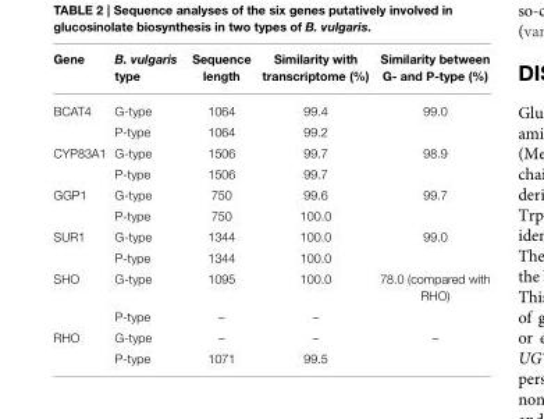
<table><thead><tr><td>Gene</td><td>B. vulgaris type</td><td>Sequence length</td><td>Similarity with transcriptome (%)</td><td>Similarity between G- and P-type (%)</td></tr></thead><tbody><tr><td rowspan="2">BCAT4</td><td>G-type</td><td>1064</td><td>99.4</td><td>99.0</td></tr><tr><td>P-type</td><td>1064</td><td>99.2</td><td></td></tr><tr><td rowspan="2">CYP83A1</td><td>G-type</td><td>1506</td><td>99.7</td><td>98.9</td></tr><tr><td>P-type</td><td>1506</td><td>99.7</td><td></td></tr><tr><td rowspan="2">GGP1</td><td>G-type</td><td>750</td><td>99.6</td><td>99.7</td></tr><tr><td>P-type</td><td>750</td><td>100.0</td><td></td></tr><tr><td rowspan="2">SUR1</td><td>G-type</td><td>1344</td><td>100.0</td><td>99.0</td></tr><tr><td>P-type</td><td>1344</td><td>100.0</td><td></td></tr><tr><td rowspan="2">SHO</td><td>G-type</td><td>1095</td><td>100.0</td><td>78.0 (compared with RHO)</td></tr><tr><td>P-type</td><td>–</td><td>–</td><td></td></tr><tr><td rowspan="2">RHO</td><td>G-type</td><td>–</td><td>–</td><td>–</td></tr><tr><td>P-type</td><td>1071</td><td>99.5</td><td></td></tr></tbody></table>